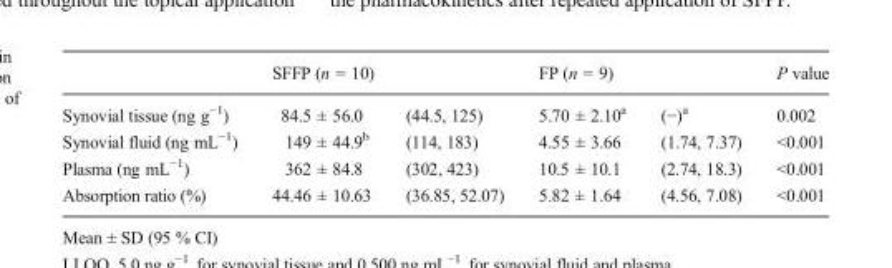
<table><thead><tr><td rowspan="2">Synovial tissue (ng g<sup>−1</sup>)</td><td colspan="2">SFFP (n = 10)</td><td colspan="2">FP (n = 9)</td><td rowspan="2">P value 0.002</td></tr><tr><td>84.5 ± 56.0</td><td>(44.5, 125)</td><td>5.70 ± 2.10<sup>a</sup></td><td>(−)<sup>a</sup></td></tr></thead><tbody><tr><td>Synovial fluid (ng mL<sup>−1</sup>)</td><td>149 ± 44.9<sup>b</sup></td><td>(114, 183)</td><td>4.55 ± 3.66</td><td>(1.74, 7.37)</td><td>&lt;0.001</td></tr><tr><td>Plasma (ng mL<sup>−1</sup>)</td><td>362 ± 84.8</td><td>(302, 423)</td><td>10.5 ± 10.1</td><td>(2.74, 18.3)</td><td>&lt;0.001</td></tr><tr><td>Absorption ratio (%)</td><td>44.46 ± 10.63</td><td>(36.85, 52.07)</td><td>5.82 ± 1.64</td><td>(4.56, 7.08)</td><td>&lt;0.001</td></tr></tbody></table>